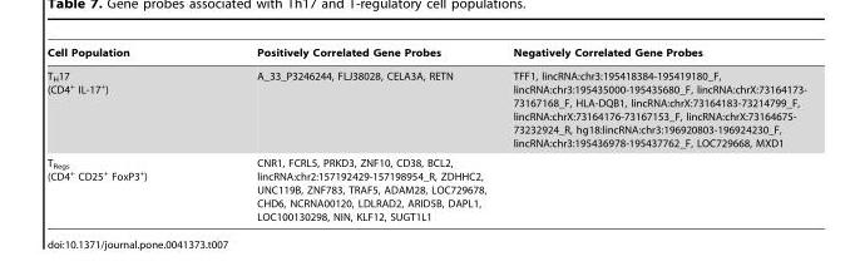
<table><thead><tr><td>Cell Population</td><td>Positively Correlated Gene Probes</td><td>Negatively Correlated Gene Probes</td></tr></thead><tbody><tr><td>T<sub>H</sub>17 (CD4<sup>+</sup> IL-17<sup>+</sup>)</td><td>A_33_P3246244, FLJ38028, CELA3A, RETN</td><td>TFF1, lincRNA:chr3:195418384-195419180_F, lincRNA:chr3:195435000-195435680_F, lincRNA:chrX:73164173- 73167168_F, HLA-DQB1, lincRNA:chrX:73164183-73214799_F, lincRNA:chrX:73164176-73167153_F, lincRNA:chrX:73164675- 73232924_R, hg18:lincRNA:chr3:196920803-196924230_F, lincRNA:chr3:195436978-195437762_F, LOC729668, MXD1</td></tr><tr><td>T<sub>Regs</sub> (CD4<sup>+</sup> CD25<sup>+</sup> FoxP3<sup>+</sup>)</td><td>CNR1, FCRL5, PRKD3, ZNF10, CD38, BCL2, lincRNA:chr2:157192429-157198954_R, ZDHHC2, UNC119B, ZNF783, TRAF5, ADAM28, LOC729678, CHD6, NCRNA00120, LDLRAD2, ARID5B, DAPL1, LOC100130298, NIN, KLF12, SUGT1L1</td><td></td></tr></tbody></table>